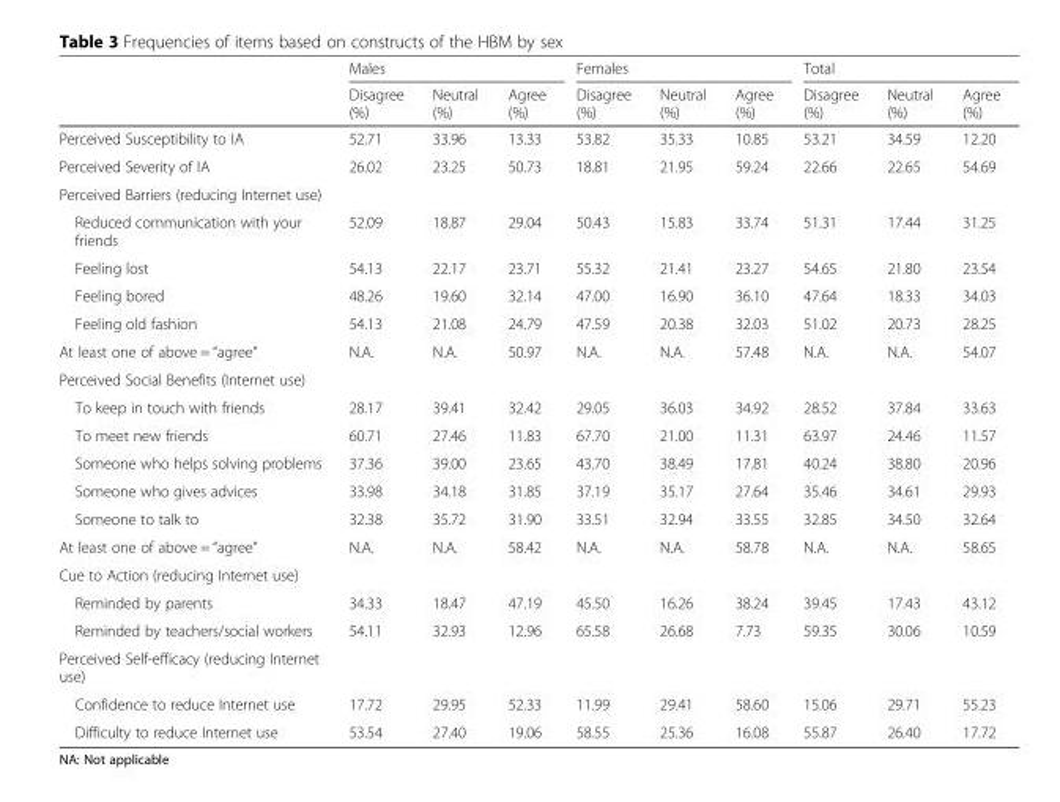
<table><thead><tr><td rowspan="2"></td><td colspan="3">Males</td><td colspan="3">Females</td><td colspan="3">Total</td></tr><tr><td>Disagree (%)</td><td>Neutral (%)</td><td>Agree (%)</td><td>Disagree (%)</td><td>Neutral (%)</td><td>Agree (%)</td><td>Disagree (%)</td><td>Neutral (%)</td><td>Agree (%)</td></tr></thead><tbody><tr><td>Perceived Susceptibility to IA</td><td>52.71</td><td>33.96</td><td>13.33</td><td>53.82</td><td>35.33</td><td>10.85</td><td>53.21</td><td>34.59</td><td>12.20</td></tr><tr><td>Perceived Severity of IA</td><td>26.02</td><td>23.25</td><td>50.73</td><td>18.81</td><td>21.95</td><td>59.24</td><td>22.66</td><td>22.65</td><td>54.69</td></tr><tr><td colspan="10">Perceived Barriers (reducing Internet use)</td></tr><tr><td>Reduced communication with your friends</td><td>52.09</td><td>18.87</td><td>29.04</td><td>50.43</td><td>15.83</td><td>33.74</td><td>51.31</td><td>17.44</td><td>31.25</td></tr><tr><td>Feeling lost</td><td>54.13</td><td>22.17</td><td>23.71</td><td>55.32</td><td>21.41</td><td>23.27</td><td>54.65</td><td>21.80</td><td>23.54</td></tr><tr><td>Feeling bored</td><td>48.26</td><td>19.60</td><td>32.14</td><td>47.00</td><td>16.90</td><td>36.10</td><td>47.64</td><td>18.33</td><td>34.03</td></tr><tr><td>Feeling old fashion</td><td>54.13</td><td>21.08</td><td>24.79</td><td>47.59</td><td>20.38</td><td>32.03</td><td>51.02</td><td>20.73</td><td>28.25</td></tr><tr><td>At least one of above = “agree”</td><td>N.A.</td><td>N.A.</td><td>50.97</td><td>N.A.</td><td>N.A.</td><td>57.48</td><td>N.A.</td><td>N.A.</td><td>54.07</td></tr><tr><td colspan="10">Perceived Social Benefits (Internet use)</td></tr><tr><td>To keep in touch with friends</td><td>28.17</td><td>39.41</td><td>32.42</td><td>29.05</td><td>36.03</td><td>34.92</td><td>28.52</td><td>37.84</td><td>33.63</td></tr><tr><td>To meet new friends</td><td>60.71</td><td>27.46</td><td>11.83</td><td>67.70</td><td>21.00</td><td>11.31</td><td>63.97</td><td>24.46</td><td>11.57</td></tr><tr><td>Someone who helps solving problems</td><td>37.36</td><td>39.00</td><td>23.65</td><td>43.70</td><td>38.49</td><td>17.81</td><td>40.24</td><td>38.80</td><td>20.96</td></tr><tr><td>Someone who gives advices</td><td>33.98</td><td>34.18</td><td>31.85</td><td>37.19</td><td>35.17</td><td>27.64</td><td>35.46</td><td>34.61</td><td>29.93</td></tr><tr><td>Someone to talk to</td><td>32.38</td><td>35.72</td><td>31.90</td><td>33.51</td><td>32.94</td><td>33.55</td><td>32.85</td><td>34.50</td><td>32.64</td></tr><tr><td>At least one of above = “agree”</td><td>N.A.</td><td>N.A.</td><td>58.42</td><td>N.A.</td><td>N.A.</td><td>58.78</td><td>N.A.</td><td>N.A.</td><td>58.65</td></tr><tr><td colspan="10">Cue to Action (reducing Internet use)</td></tr><tr><td>Reminded by parents</td><td>34.33</td><td>18.47</td><td>47.19</td><td>45.50</td><td>16.26</td><td>38.24</td><td>39.45</td><td>17.43</td><td>43.12</td></tr><tr><td>Reminded by teachers/social workers</td><td>54.11</td><td>32.93</td><td>12.96</td><td>65.58</td><td>26.68</td><td>7.73</td><td>59.35</td><td>30.06</td><td>10.59</td></tr><tr><td colspan="10">Perceived Self-efficacy (reducing Internet use)</td></tr><tr><td>Confidence to reduce Internet use</td><td>17.72</td><td>29.95</td><td>52.33</td><td>11.99</td><td>29.41</td><td>58.60</td><td>15.06</td><td>29.71</td><td>55.23</td></tr><tr><td>Difficulty to reduce Internet use</td><td>53.54</td><td>27.40</td><td>19.06</td><td>58.55</td><td>25.36</td><td>16.08</td><td>55.87</td><td>26.40</td><td>17.72</td></tr></tbody></table>